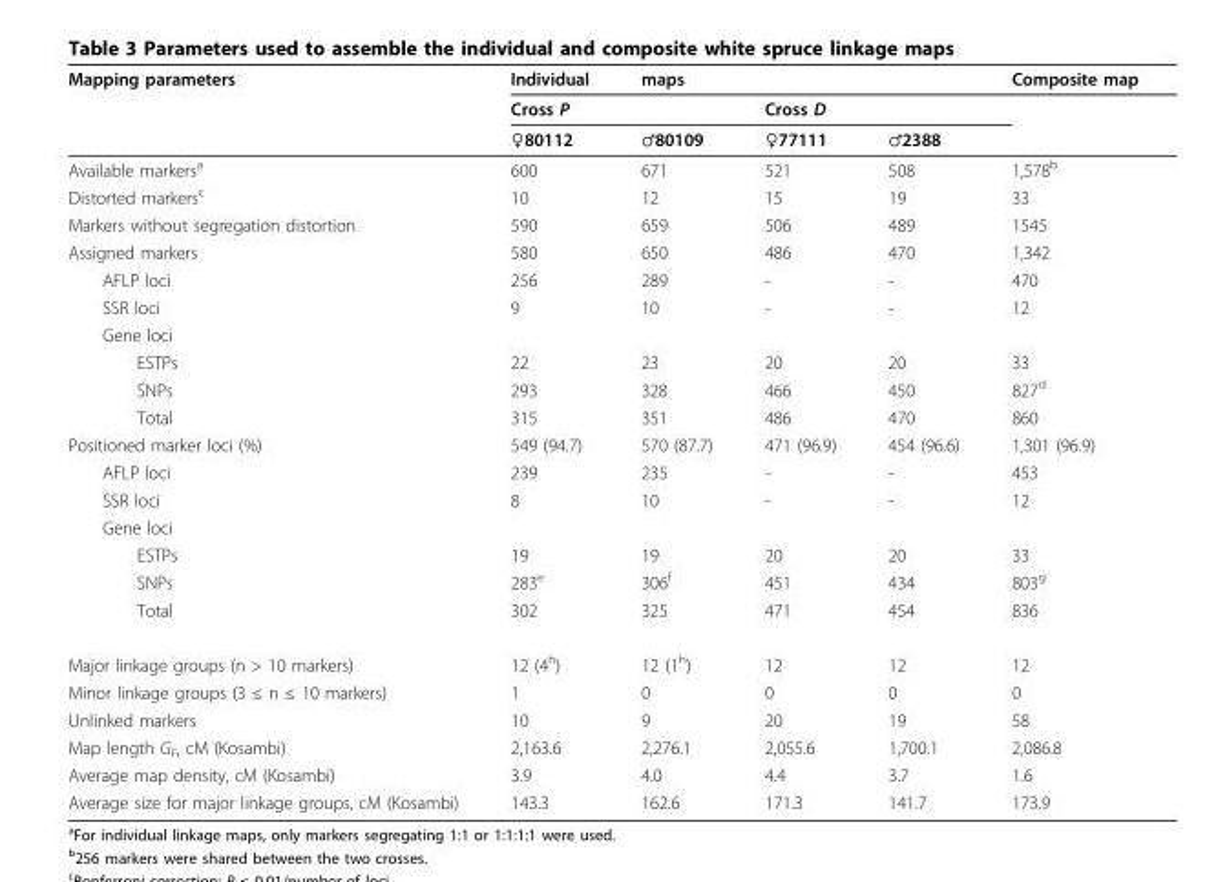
<table><thead><tr><td rowspan="3">Mapping parameters</td><td rowspan="3">Individual Cross P ♀80112</td><td rowspan="3">maps ♂80109</td><td rowspan="3">Cross D ♀77111</td><td rowspan="3">♂2388</td><td rowspan="3">Composite map</td></tr><tr></tr><tr></tr></thead><tbody><tr><td>Available markers<sup>a</sup></td><td>600</td><td>671</td><td>521</td><td>508</td><td>1,578<sup>b</sup></td></tr><tr><td>Distorted markers<sup>c</sup></td><td>10</td><td>12</td><td>15</td><td>19</td><td>33</td></tr><tr><td>Markers without segregation distortion</td><td>590</td><td>659</td><td>506</td><td>489</td><td>1545</td></tr><tr><td>Assigned markers</td><td>580</td><td>650</td><td>486</td><td>470</td><td>1,342</td></tr><tr><td>AFLP loci</td><td>256</td><td>289</td><td>-</td><td>-</td><td>470</td></tr><tr><td>SSR loci</td><td>9</td><td>10</td><td>-</td><td>-</td><td>12</td></tr><tr><td colspan="6">Gene loci</td></tr><tr><td>ESTPs</td><td>22</td><td>23</td><td>20</td><td>20</td><td>33</td></tr><tr><td>SNPs</td><td>293</td><td>328</td><td>466</td><td>450</td><td>827<sup>d</sup></td></tr><tr><td>Total</td><td>315</td><td>351</td><td>486</td><td>470</td><td>860</td></tr><tr><td>Positioned marker loci (%)</td><td>549 (94.7)</td><td>570 (87.7)</td><td>471 (96.9)</td><td>454 (96.6)</td><td>1,301 (96.9)</td></tr><tr><td>AFLP loci</td><td>239</td><td>235</td><td>-</td><td>-</td><td>453</td></tr><tr><td>SSR loci</td><td>8</td><td>10</td><td>-</td><td>-</td><td>12</td></tr><tr><td colspan="6">Gene loci</td></tr><tr><td>ESTPs</td><td>19</td><td>19</td><td>20</td><td>20</td><td>33</td></tr><tr><td>SNPs</td><td>283<sup>e</sup></td><td>306<sup>f</sup></td><td>451</td><td>434</td><td>803<sup>g</sup></td></tr><tr><td>Total</td><td>302</td><td>325</td><td>471</td><td>454</td><td>836</td></tr><tr><td>Major linkage groups (n &gt; 10 markers)</td><td>12 (4<sup>h</sup>)</td><td>12 (1<sup>h</sup>)</td><td>12</td><td>12</td><td>12</td></tr><tr><td>Minor linkage groups (3 ≤ n ≤ 10 markers)</td><td>1</td><td>0</td><td>0</td><td>0</td><td>0</td></tr><tr><td>Unlinked markers</td><td>10</td><td>9</td><td>20</td><td>19</td><td>58</td></tr><tr><td>Map length G<sub>F</sub>, cM (Kosambi)</td><td>2,163.6</td><td>2,276.1</td><td>2,055.6</td><td>1,700.1</td><td>2,086.8</td></tr><tr><td>Average map density, cM (Kosambi)</td><td>3.9</td><td>4.0</td><td>4.4</td><td>3.7</td><td>1.6</td></tr><tr><td>Average size for major linkage groups, cM (Kosambi)</td><td>143.3</td><td>162.6</td><td>171.3</td><td>141.7</td><td>173.9</td></tr></tbody></table>